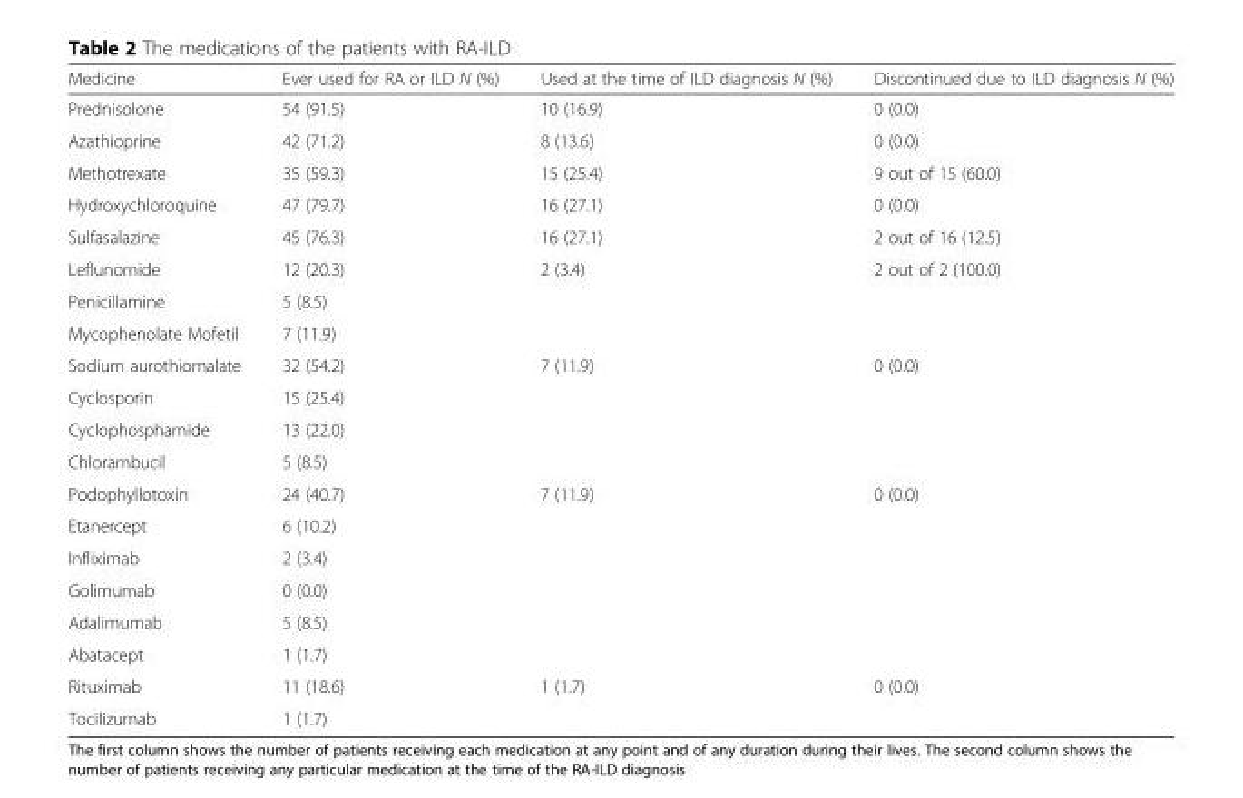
<table><thead><tr><td>Medicine</td><td>Ever used for RA or ILD N (%)</td><td>Used at the time of ILD diagnosis N (%)</td><td>Discontinued due to ILD diagnosis N (%)</td></tr></thead><tbody><tr><td>Prednisolone</td><td>54 (91.5)</td><td>10 (16.9)</td><td>0 (0.0)</td></tr><tr><td>Azathioprine</td><td>42 (71.2)</td><td>8 (13.6)</td><td>0 (0.0)</td></tr><tr><td>Methotrexate</td><td>35 (59.3)</td><td>15 (25.4)</td><td>9 out of 15 (60.0)</td></tr><tr><td>Hydroxychloroquine</td><td>47 (79.7)</td><td>16 (27.1)</td><td>0 (0.0)</td></tr><tr><td>Sulfasalazine</td><td>45 (76.3)</td><td>16 (27.1)</td><td>2 out of 16 (12.5)</td></tr><tr><td>Leflunomide</td><td>12 (20.3)</td><td>2 (3.4)</td><td>2 out of 2 (100.0)</td></tr><tr><td>Penicillamine</td><td>5 (8.5)</td><td></td><td></td></tr><tr><td>Mycophenolate Mofetil</td><td>7 (11.9)</td><td></td><td></td></tr><tr><td>Sodium aurothiomalate</td><td>32 (54.2)</td><td>7 (11.9)</td><td>0 (0.0)</td></tr><tr><td>Cyclosporin</td><td>15 (25.4)</td><td></td><td></td></tr><tr><td>Cyclophosphamide</td><td>13 (22.0)</td><td></td><td></td></tr><tr><td>Chlorambucil</td><td>5 (8.5)</td><td></td><td></td></tr><tr><td>Podophyllotoxin</td><td>24 (40.7)</td><td>7 (11.9)</td><td>0 (0.0)</td></tr><tr><td>Etanercept</td><td>6 (10.2)</td><td></td><td></td></tr><tr><td>Infliximab</td><td>2 (3.4)</td><td></td><td></td></tr><tr><td>Golimumab</td><td>0 (0.0)</td><td></td><td></td></tr><tr><td>Adalimumab</td><td>5 (8.5)</td><td></td><td></td></tr><tr><td>Abatacept</td><td>1 (1.7)</td><td></td><td></td></tr><tr><td>Rituximab</td><td>11 (18.6)</td><td>1 (1.7)</td><td>0 (0.0)</td></tr><tr><td>Tocilizumab</td><td>1 (1.7)</td><td></td><td></td></tr></tbody></table>